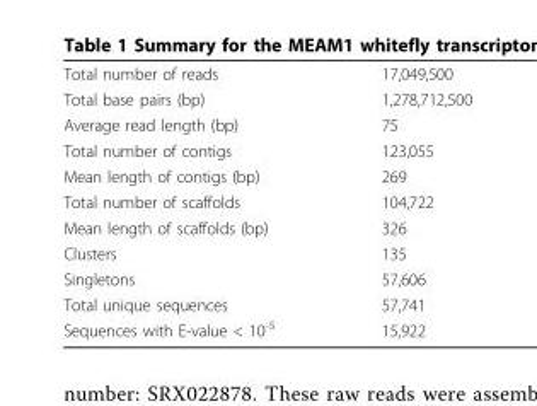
<table><tbody><tr><td>Total number of reads</td><td>17,049,500</td></tr><tr><td>Total base pairs (bp)</td><td>1,278,712,500</td></tr><tr><td>Average read length (bp)</td><td>75</td></tr><tr><td>Total number of contigs</td><td>123,055</td></tr><tr><td>Mean length of contigs (bp)</td><td>269</td></tr><tr><td>Total number of scaffolds</td><td>104,722</td></tr><tr><td>Mean length of scaffolds (bp)</td><td>326</td></tr><tr><td>Clusters</td><td>135</td></tr><tr><td>Singletons</td><td>57,606</td></tr><tr><td>Total unique sequences</td><td>57,741</td></tr><tr><td>Sequences with E-value &lt; 10<sup>-5</sup></td><td>15,922</td></tr></tbody></table>